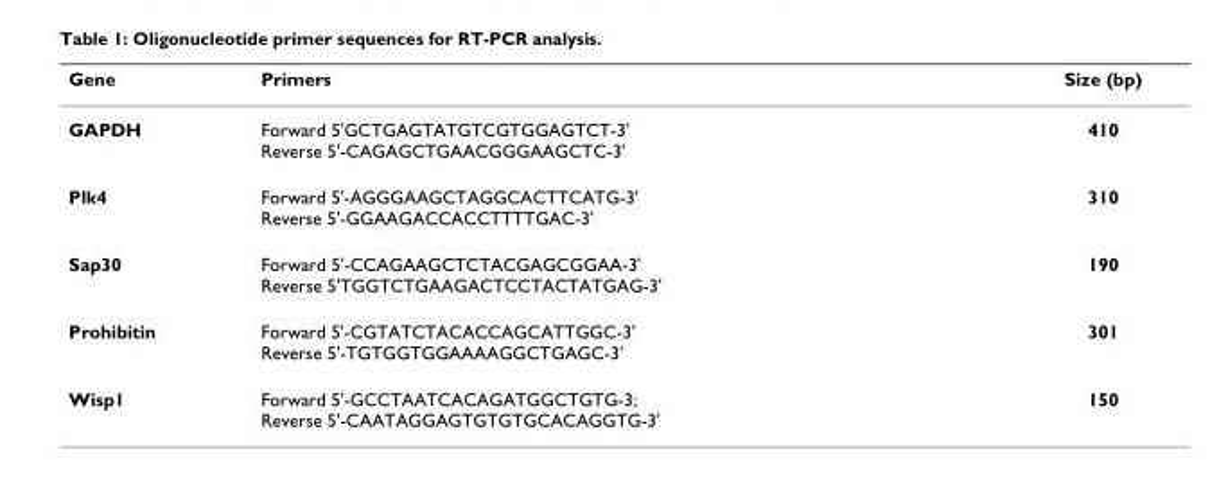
<table><thead><tr><td>Gene</td><td>Primers</td><td>Size (bp)</td></tr></thead><tbody><tr><td>GAPDH</td><td>Forward 5&#x27;GCTGAGTATGTCGTGGAGTCT-3&#x27; Reverse 5&#x27;-CAGAGCTGAACGGGAAGCTC-3&#x27;</td><td>410</td></tr><tr><td>Plk4</td><td>Forward 5&#x27;-AGGGAAGCTAGGCACTTCATG-3&#x27; Reverse 5&#x27;-GGAAGACCACCTTTTGAC-3&#x27;</td><td>310</td></tr><tr><td>Sap30</td><td>Forward 5&#x27;-CCAGAAGCTCTACGAGCGGAA-3&#x27; Reverse 5&#x27;TGGTCTGAAGACTCCTACTATGAG-3&#x27;</td><td>190</td></tr><tr><td>Prohibitin</td><td>Forward 5&#x27;-CGTATCTACACCAGCATTGGC-3&#x27; Reverse 5&#x27;-TGTGGTGGAAAAGGCTGAGC-3&#x27;</td><td>301</td></tr><tr><td>Wisp1</td><td>Forward 5&#x27;-GCCTAATCACAGATGGCTGTG-3; Reverse 5&#x27;-CAATAGGAGTGTGTGCACAGGTG-3&#x27;</td><td>150</td></tr></tbody></table>